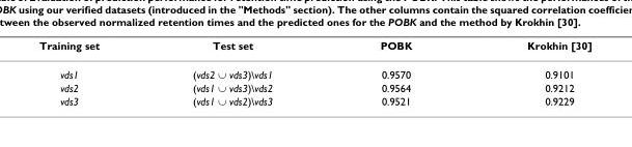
<table><thead><tr><td>Training set</td><td>Test set</td><td>POBK</td><td>Krokhin [30]</td></tr></thead><tbody><tr><td>vds1</td><td>(vds2 ∪ vds3)\vds1</td><td>0.9570</td><td>0.9101</td></tr><tr><td>vds2</td><td>(vds1 ∪ vds3)\vds2</td><td>0.9564</td><td>0.9212</td></tr><tr><td>vds3</td><td>(vds1 ∪ vds2)\vds3</td><td>0.9521</td><td>0.9229</td></tr></tbody></table>